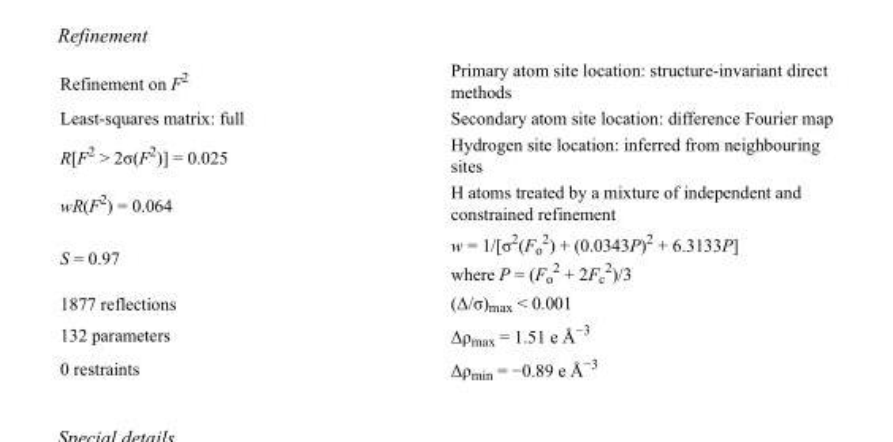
<table><tbody><tr><td>Refinement on F<sup>2</sup></td><td>Primary atom site location: structure-invariant direct methods</td></tr><tr><td>Least-squares matrix: full</td><td>Secondary atom site location: difference Fourier map</td></tr><tr><td>R[F<sup>2</sup> &gt; 2σ(F<sup>2</sup>)] = 0.025</td><td>Hydrogen site location: inferred from neighbouring sites</td></tr><tr><td>wR(F<sup>2</sup>) = 0.064</td><td>H atoms treated by a mixture of independent and constrained refinement</td></tr><tr><td>S = 0.97</td><td>w = 1/[σ<sup>2</sup>(F<sub>o</sub> <sup>2</sup>) + (0.0343P)<sup>2</sup> + 6.3133P] where P = (F<sub>o</sub> <sup>2</sup> + 2F<sub>c</sub> <sup>2</sup>)/3</td></tr><tr><td>1877 reflections</td><td>(Δ/σ)<sub>max</sub> &lt; 0.001</td></tr><tr><td>132 parameters</td><td>Δρ<sub>max</sub> = 1.51 e Å<sup>−3</sup></td></tr><tr><td>0 restraints</td><td>Δρ<sub>min</sub> = −0.89 e Å<sup>−3</sup></td></tr></tbody></table>